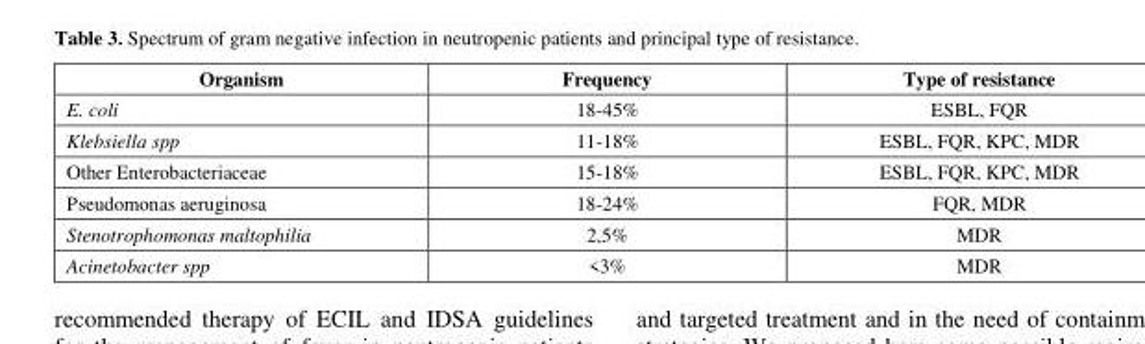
<table><thead><tr><td>Organism</td><td>Frequency</td><td>Type of resistance</td></tr></thead><tbody><tr><td>E. coli</td><td>18-45%</td><td>ESBL, FQR</td></tr><tr><td>Klebsiella spp</td><td>11-18%</td><td>ESBL, FQR, KPC, MDR</td></tr><tr><td>Other Enterobacteriaceae</td><td>15-18%</td><td>ESBL, FQR, KPC, MDR</td></tr><tr><td>Pseudomonas aeruginosa</td><td>18-24%</td><td>FQR, MDR</td></tr><tr><td>Stenotrophomonas maltophilia</td><td>2,5%</td><td>MDR</td></tr><tr><td>Acinetobacter spp</td><td>&lt;3%</td><td>MDR</td></tr></tbody></table>